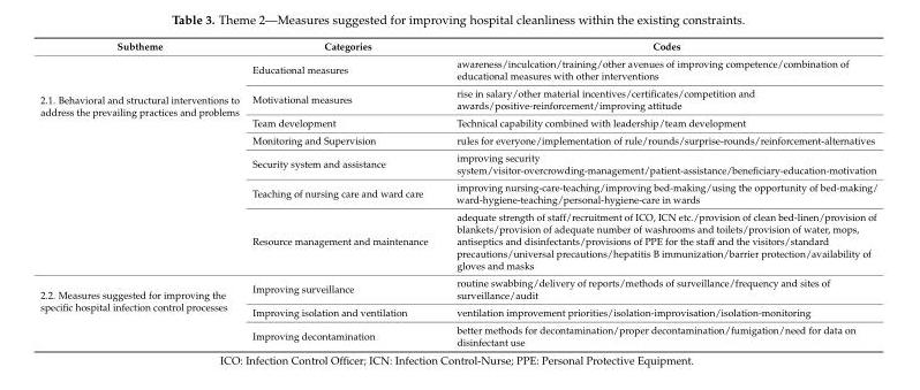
<table><thead><tr><td>Subtheme</td><td>Categories</td><td>Codes</td></tr></thead><tbody><tr><td rowspan="7">2.1. Behavioral and structural interventions to address the prevailing practices and problems</td><td>Educational measures</td><td>awareness/inculcation/training/other avenues of improving competence/combination of educational measures with other interventions</td></tr><tr><td>Motivational measures</td><td>rise in salary/other material incentives/certificates/competition and awards/positive-reinforcement/improving attitude</td></tr><tr><td>Team development</td><td>Technical capability combined with leadership/team development</td></tr><tr><td>Monitoring and Supervision</td><td>rules for everyone/implementation of rule/rounds/surprise-rounds/reinforcement-alternatives</td></tr><tr><td>Security system and assistance</td><td>improving security system/visitor-overcrowding-management/patient-assistance/beneficiary-education-motivation</td></tr><tr><td>Teaching of nursing care and ward care</td><td>improving nursing-care-teaching/improving bed-making/using the opportunity of bed-making/ ward-hygiene-teaching/personal-hygiene-care in wards</td></tr><tr><td>Resource management and maintenance</td><td>adequate strength of staff/recruitment of ICO, ICN etc./provision of clean bed-linen/provision of blankets/provision of adequate number of washrooms and toilets/provision of water, mops, antiseptics and disinfectants/provisions of PPE for the staff and the visitors/standard precautions/universal precautions/hepatitis B immunization/barrier protection/availability of gloves and masks</td></tr><tr><td rowspan="3">2.2. Measures suggested for improving the specific hospital infection control processes</td><td>Improving surveillance</td><td>routine swabbing/delivery of reports/methods of surveillance/frequency and sites of surveillance/audit</td></tr><tr><td>Improving isolation and ventilation</td><td>ventilation improvement priorities/isolation-improvisation/isolation-monitoring</td></tr><tr><td>Improving decontamination</td><td>better methods for decontamination/proper decontamination/fumigation/need for data on disinfectant use</td></tr></tbody></table>